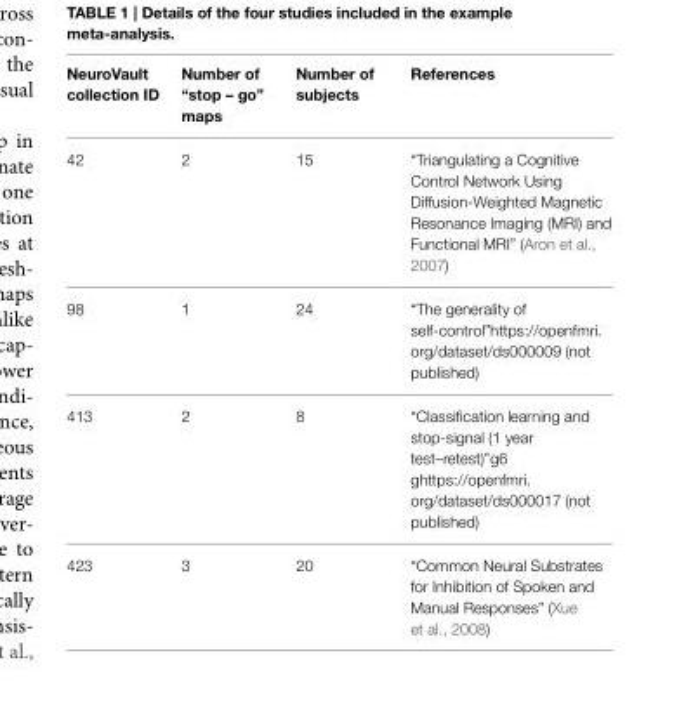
<table><thead><tr><td>NeuroVault collection ID</td><td>Number of “stop – go” maps</td><td>Number of subjects</td><td>References</td></tr></thead><tbody><tr><td>42</td><td>2</td><td>15</td><td>“Triangulating a Cognitive Control Network Using Diffusion-Weighted Magnetic Resonance Imaging (MRI) and Functional MRI” (Aron et al., 2007)</td></tr><tr><td>98</td><td>1</td><td>24</td><td>“The generality of self-control”https://openfmri. org/dataset/ds000009 (not published)</td></tr><tr><td>413</td><td>2</td><td>8</td><td>“Classification learning and stop-signal (1 year test–retest)”g6 ghttps://openfmri. org/dataset/ds000017 (not published)</td></tr><tr><td>423</td><td>3</td><td>20</td><td>“Common Neural Substrates for Inhibition of Spoken and Manual Responses” (Xue et al., 2008)</td></tr></tbody></table>